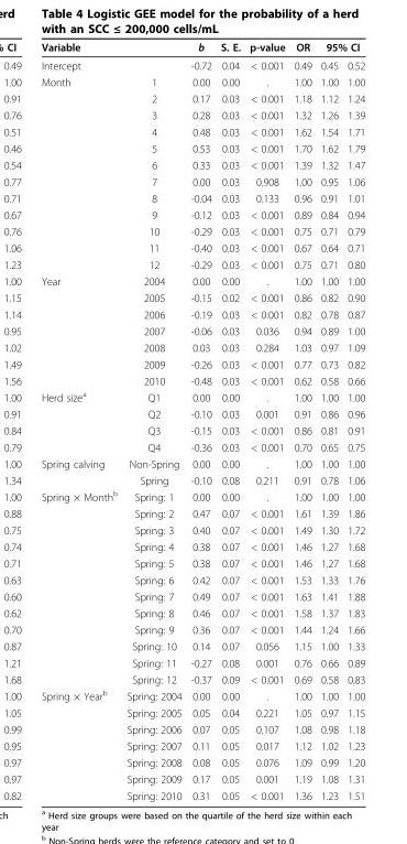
<table><thead><tr><td rowspan="2">Variable Intercept</td><td rowspan="2"></td><td rowspan="2">b -0.72</td><td rowspan="2">S. E. 0.04</td><td rowspan="2">p-value &lt; 0.001</td><td rowspan="2">OR 0.49</td><td colspan="2">95% CI</td></tr><tr><td>0.45</td><td>0.52</td></tr></thead><tbody><tr><td rowspan="12">Month</td><td>1</td><td>0.00</td><td>0.00</td><td>.</td><td>1.00</td><td>1.00</td><td>1.00</td></tr><tr><td>2</td><td>0.17</td><td>0.03</td><td>&lt; 0.001</td><td>1.18</td><td>1.12</td><td>1.24</td></tr><tr><td>3</td><td>0.28</td><td>0.03</td><td>&lt; 0.001</td><td>1.32</td><td>1.26</td><td>1.39</td></tr><tr><td>4</td><td>0.48</td><td>0.03</td><td>&lt; 0.001</td><td>1.62</td><td>1.54</td><td>1.71</td></tr><tr><td>5</td><td>0.53</td><td>0.03</td><td>&lt; 0.001</td><td>1.70</td><td>1.62</td><td>1.79</td></tr><tr><td>6</td><td>0.33</td><td>0.03</td><td>&lt; 0.001</td><td>1.39</td><td>1.32</td><td>1.47</td></tr><tr><td>7</td><td>0.00</td><td>0.03</td><td>0.908</td><td>1.00</td><td>0.95</td><td>1.06</td></tr><tr><td>8</td><td>-0.04</td><td>0.03</td><td>0.133</td><td>0.96</td><td>0.91</td><td>1.01</td></tr><tr><td>9</td><td>-0.12</td><td>0.03</td><td>&lt; 0.001</td><td>0.89</td><td>0.84</td><td>0.94</td></tr><tr><td>10</td><td>-0.29</td><td>0.03</td><td>&lt; 0.001</td><td>0.75</td><td>0.71</td><td>0.79</td></tr><tr><td>11</td><td>-0.40</td><td>0.03</td><td>&lt; 0.001</td><td>0.67</td><td>0.64</td><td>0.71</td></tr><tr><td>12</td><td>-0.29</td><td>0.03</td><td>&lt; 0.001</td><td>0.75</td><td>0.71</td><td>0.80</td></tr><tr><td rowspan="7">Year</td><td>2004</td><td>0.00</td><td>0.00</td><td>.</td><td>1.00</td><td>1.00</td><td>1.00</td></tr><tr><td>2005</td><td>-0.15</td><td>0.02</td><td>&lt; 0.001</td><td>0.86</td><td>0.82</td><td>0.90</td></tr><tr><td>2006</td><td>-0.19</td><td>0.03</td><td>&lt; 0.001</td><td>0.82</td><td>0.78</td><td>0.87</td></tr><tr><td>2007</td><td>-0.06</td><td>0.03</td><td>0.036</td><td>0.94</td><td>0.89</td><td>1.00</td></tr><tr><td>2008</td><td>0.03</td><td>0.03</td><td>0.284</td><td>1.03</td><td>0.97</td><td>1.09</td></tr><tr><td>2009</td><td>-0.26</td><td>0.03</td><td>&lt; 0.001</td><td>0.77</td><td>0.73</td><td>0.82</td></tr><tr><td>2010</td><td>-0.48</td><td>0.03</td><td>&lt; 0.001</td><td>0.62</td><td>0.58</td><td>0.66</td></tr><tr><td rowspan="4">Herd size<sup>a</sup></td><td>Q1</td><td>0.00</td><td>0.00</td><td>.</td><td>1.00</td><td>1.00</td><td>1.00</td></tr><tr><td>Q2</td><td>-0.10</td><td>0.03</td><td>0.001</td><td>0.91</td><td>0.86</td><td>0.96</td></tr><tr><td>Q3</td><td>-0.15</td><td>0.03</td><td>&lt; 0.001</td><td>0.86</td><td>0.81</td><td>0.91</td></tr><tr><td>Q4</td><td>-0.36</td><td>0.03</td><td>&lt; 0.001</td><td>0.70</td><td>0.65</td><td>0.75</td></tr><tr><td rowspan="2">Spring calving</td><td>Non-Spring</td><td>0.00</td><td>0.00</td><td>.</td><td>1.00</td><td>1.00</td><td>1.00</td></tr><tr><td>Spring</td><td>-0.10</td><td>0.08</td><td>0.211</td><td>0.91</td><td>0.78</td><td>1.06</td></tr><tr><td rowspan="12">Spring × Month<sup>b</sup></td><td>Spring: 1</td><td>0.00</td><td>0.00</td><td>.</td><td>1.00</td><td>1.00</td><td>1.00</td></tr><tr><td>Spring: 2</td><td>0.47</td><td>0.07</td><td>&lt; 0.001</td><td>1.61</td><td>1.39</td><td>1.86</td></tr><tr><td>Spring: 3</td><td>0.40</td><td>0.07</td><td>&lt; 0.001</td><td>1.49</td><td>1.30</td><td>1.72</td></tr><tr><td>Spring: 4</td><td>0.38</td><td>0.07</td><td>&lt; 0.001</td><td>1.46</td><td>1.27</td><td>1.68</td></tr><tr><td>Spring: 5</td><td>0.38</td><td>0.07</td><td>&lt; 0.001</td><td>1.46</td><td>1.27</td><td>1.68</td></tr><tr><td>Spring: 6</td><td>0.42</td><td>0.07</td><td>&lt; 0.001</td><td>1.53</td><td>1.33</td><td>1.76</td></tr><tr><td>Spring: 7</td><td>0.49</td><td>0.07</td><td>&lt; 0.001</td><td>1.63</td><td>1.41</td><td>1.88</td></tr><tr><td>Spring: 8</td><td>0.46</td><td>0.07</td><td>&lt; 0.001</td><td>1.58</td><td>1.37</td><td>1.83</td></tr><tr><td>Spring: 9</td><td>0.36</td><td>0.07</td><td>&lt; 0.001</td><td>1.44</td><td>1.24</td><td>1.66</td></tr><tr><td>Spring: 10</td><td>0.14</td><td>0.07</td><td>0.056</td><td>1.15</td><td>1.00</td><td>1.33</td></tr><tr><td>Spring: 11</td><td>-0.27</td><td>0.08</td><td>0.001</td><td>0.76</td><td>0.66</td><td>0.89</td></tr><tr><td>Spring: 12</td><td>-0.37</td><td>0.09</td><td>&lt; 0.001</td><td>0.69</td><td>0.58</td><td>0.83</td></tr><tr><td rowspan="7">Spring × Year<sup>b</sup></td><td>Spring: 2004</td><td>0.00</td><td>0.00</td><td>.</td><td>1.00</td><td>1.00</td><td>1.00</td></tr><tr><td>Spring: 2005</td><td>0.05</td><td>0.04</td><td>0.221</td><td>1.05</td><td>0.97</td><td>1.15</td></tr><tr><td>Spring: 2006</td><td>0.07</td><td>0.05</td><td>0.107</td><td>1.08</td><td>0.98</td><td>1.18</td></tr><tr><td>Spring: 2007</td><td>0.11</td><td>0.05</td><td>0.017</td><td>1.12</td><td>1.02</td><td>1.23</td></tr><tr><td>Spring: 2008</td><td>0.08</td><td>0.05</td><td>0.076</td><td>1.09</td><td>0.99</td><td>1.20</td></tr><tr><td>Spring: 2009</td><td>0.17</td><td>0.05</td><td>0.001</td><td>1.19</td><td>1.08</td><td>1.31</td></tr><tr><td>Spring: 2010</td><td>0.31</td><td>0.05</td><td>&lt; 0.001</td><td>1.36</td><td>1.23</td><td>1.51</td></tr></tbody></table>